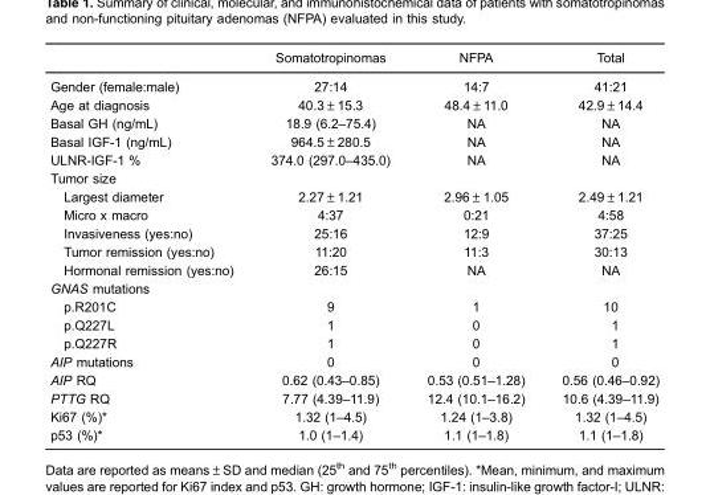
<table><thead><tr><td></td><td>Somatotropinomas</td><td>NFPA</td><td>Total</td></tr></thead><tbody><tr><td>Gender (female:male)</td><td>27:14</td><td>14:7</td><td>41:21</td></tr><tr><td>Age at diagnosis</td><td>40.3±15.3</td><td>48.4±11.0</td><td>42.9±14.4</td></tr><tr><td>Basal GH (ng/mL)</td><td>18.9 (6.2–75.4)</td><td>NA</td><td>NA</td></tr><tr><td>Basal IGF-1 (ng/mL)</td><td>964.5±280.5</td><td>NA</td><td>NA</td></tr><tr><td>ULNR-IGF-1 %</td><td>374.0 (297.0–435.0)</td><td>NA</td><td>NA</td></tr><tr><td colspan="4">Tumor size</td></tr><tr><td>Largest diameter</td><td>2.27±1.21</td><td>2.96±1.05</td><td>2.49±1.21</td></tr><tr><td>Micro x macro</td><td>4:37</td><td>0:21</td><td>4:58</td></tr><tr><td>Invasiveness (yes:no)</td><td>25:16</td><td>12:9</td><td>37:25</td></tr><tr><td>Tumor remission (yes:no)</td><td>11:20</td><td>11:3</td><td>30:13</td></tr><tr><td>Hormonal remission (yes:no)</td><td>26:15</td><td>NA</td><td>NA</td></tr><tr><td colspan="4">GNAS mutations</td></tr><tr><td>p.R201C</td><td>9</td><td>1</td><td>10</td></tr><tr><td>p.Q227L</td><td>1</td><td>0</td><td>1</td></tr><tr><td>p.Q227R</td><td>1</td><td>0</td><td>1</td></tr><tr><td>AIP mutations</td><td>0</td><td>0</td><td>0</td></tr><tr><td>AIP RQ</td><td>0.62 (0.43–0.85)</td><td>0.53 (0.51–1.28)</td><td>0.56 (0.46–0.92)</td></tr><tr><td>PTTG RQ</td><td>7.77 (4.39–11.9)</td><td>12.4 (10.1–16.2)</td><td>10.6 (4.39–11.9)</td></tr><tr><td>Ki67 (%)*</td><td>1.32 (1–4.5)</td><td>1.24 (1–3.8)</td><td>1.32 (1–4.5)</td></tr><tr><td>p53 (%)*</td><td>1.0 (1–1.4)</td><td>1.1 (1–1.8)</td><td>1.1 (1–1.8)</td></tr></tbody></table>